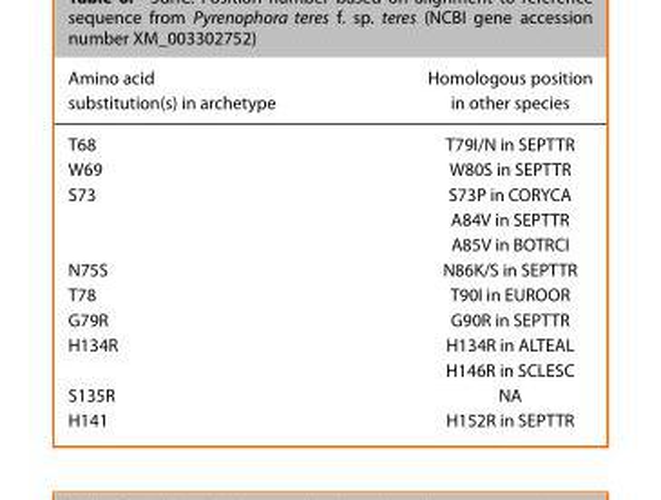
<table><thead><tr><td>Amino acid substitution(s) in archetype</td><td>Homologous position in other species</td></tr></thead><tbody><tr><td>T68</td><td>T79I/N in SEPTTR</td></tr><tr><td>W69</td><td>W80S in SEPTTR</td></tr><tr><td rowspan="3">S73</td><td>S73P in CORYCA</td></tr><tr><td>A84V in SEPTTR</td></tr><tr><td>A85V in BOTRCI</td></tr><tr><td>N75S</td><td>N86K/S in SEPTTR</td></tr><tr><td>T78</td><td>T90I in EUROOR</td></tr><tr><td>G79R</td><td>G90R in SEPTTR</td></tr><tr><td rowspan="2">H134R</td><td>H134R in ALTEAL</td></tr><tr><td>H146R in SCLESC</td></tr><tr><td>S135R</td><td>NA</td></tr><tr><td>H141</td><td>H152R in SEPTTR</td></tr></tbody></table>